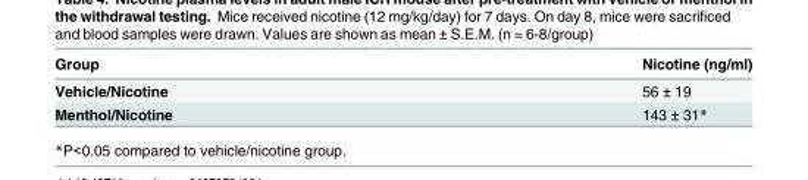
<table><thead><tr><td>Group</td><td>Nicotine (ng/ml)</td></tr></thead><tbody><tr><td>Vehicle/Nicotine</td><td>56 ± 19</td></tr><tr><td>Menthol/Nicotine</td><td>143 ± 31*</td></tr></tbody></table>